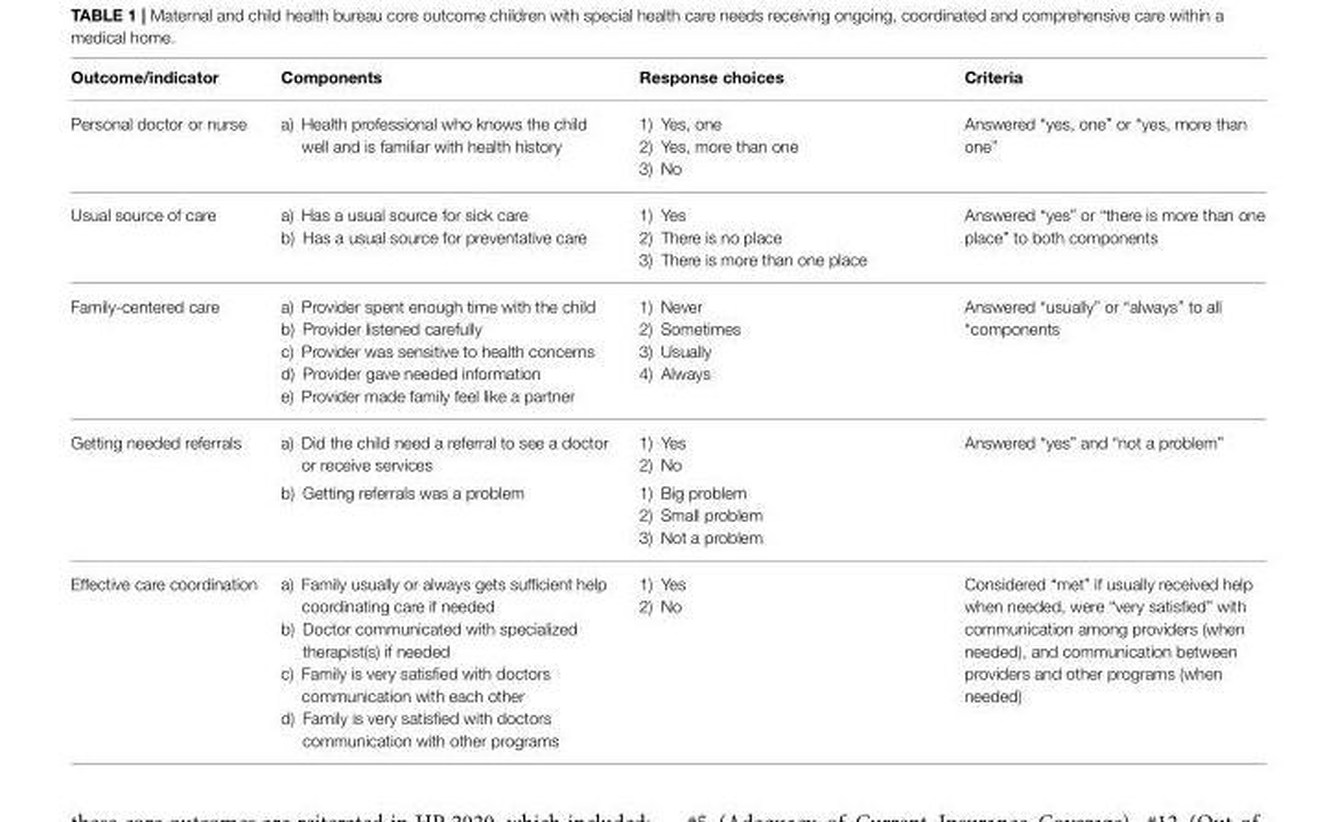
<table><thead><tr><td>Outcome/indicator</td><td>Components</td><td>Response choices</td><td>Criteria</td></tr></thead><tbody><tr><td>Personal doctor or nurse</td><td>a) Health professional who knows the child well and is familiar with health history</td><td>1) Yes, one 2) Yes, more than one 3) No</td><td>Answered “yes, one” or “yes, more than one”</td></tr><tr><td>Usual source of care</td><td>a) Has a usual source for sick care b) Has a usual source for preventative care</td><td>1) Yes 2) There is no place 3) There is more than one place</td><td>Answered “yes” or “there is more than one place” to both components</td></tr><tr><td>Family-centered care</td><td>a) Provider spent enough time with the child b) Provider listened carefully c) Provider was sensitive to health concerns d) Provider gave needed information e) Provider made family feel like a partner</td><td>1) Never 2) Sometimes 3) Usually 4) Always</td><td>Answered “usually” or “always” to all “components</td></tr><tr><td rowspan="2">Getting needed referrals</td><td>a) Did the child need a referral to see a doctor or receive services</td><td>1) Yes 2) No</td><td>Answered “yes” and “not a problem”</td></tr><tr><td>b) Getting referrals was a problem</td><td>1) Big problem 2) Small problem 3) Not a problem</td><td></td></tr><tr><td>Effective care coordination</td><td>a) Family usually or always gets sufficient help coordinating care if needed b) Doctor communicated with specialized therapist(s) if needed c) Family is very satisfied with doctors communication with each other d) Family is very satisfied with doctors communication with other programs</td><td>1) Yes 2) No</td><td>Considered “met” if usually received help when needed, were “very satisfied” with communication among providers (when needed), and communication between providers and other programs (when needed)</td></tr></tbody></table>